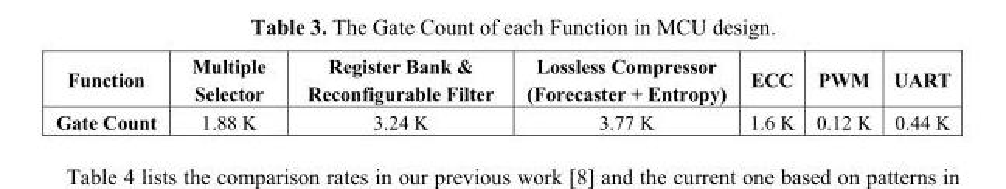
<table><thead><tr><td>Function</td><td>Multiple Selector</td><td>Register Bank &amp; Reconfigurable Filter</td><td>Lossless Compressor (Forecaster + Entropy)</td><td>ECC</td><td>PWM</td><td>UART</td></tr></thead><tbody><tr><td>Gate Count</td><td>1.88 K</td><td>3.24 K</td><td>3.77 K</td><td>1.6 K</td><td>0.12 K</td><td>0.44 K</td></tr></tbody></table>